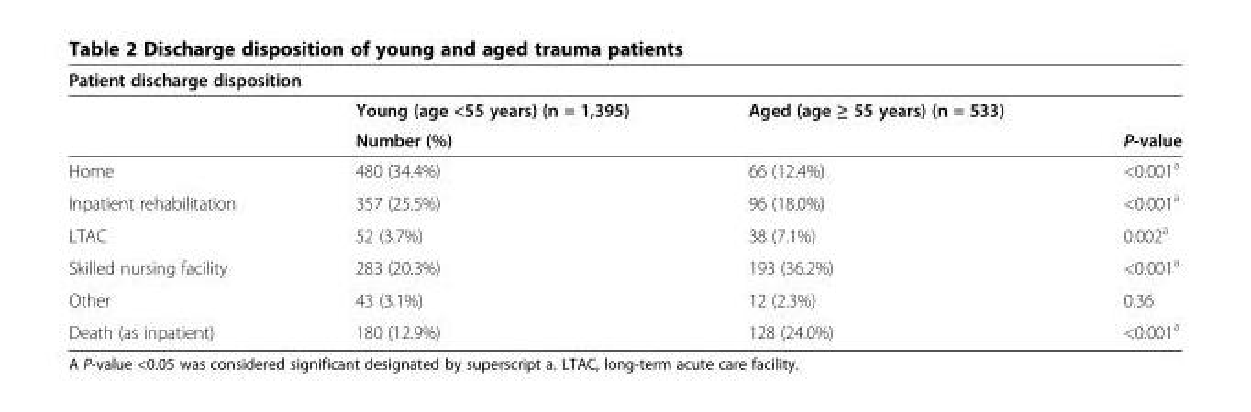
<table><thead><tr><td colspan="4">Patient discharge disposition</td></tr><tr><td rowspan="2"></td><td>Young (age &lt;55 years) (n = 1,395)</td><td>Aged (age ≥ 55 years) (n = 533)</td><td rowspan="2">P-value</td></tr><tr><td colspan="2">Number (%)</td></tr></thead><tbody><tr><td>Home</td><td>480 (34.4%)</td><td>66 (12.4%)</td><td>&lt;0.001<sup>a</sup></td></tr><tr><td>Inpatient rehabilitation</td><td>357 (25.5%)</td><td>96 (18.0%)</td><td>&lt;0.001<sup>a</sup></td></tr><tr><td>LTAC</td><td>52 (3.7%)</td><td>38 (7.1%)</td><td>0.002<sup>a</sup></td></tr><tr><td>Skilled nursing facility</td><td>283 (20.3%)</td><td>193 (36.2%)</td><td>&lt;0.001<sup>a</sup></td></tr><tr><td>Other</td><td>43 (3.1%)</td><td>12 (2.3%)</td><td>0.36</td></tr><tr><td>Death (as inpatient)</td><td>180 (12.9%)</td><td>128 (24.0%)</td><td>&lt;0.001<sup>a</sup></td></tr></tbody></table>